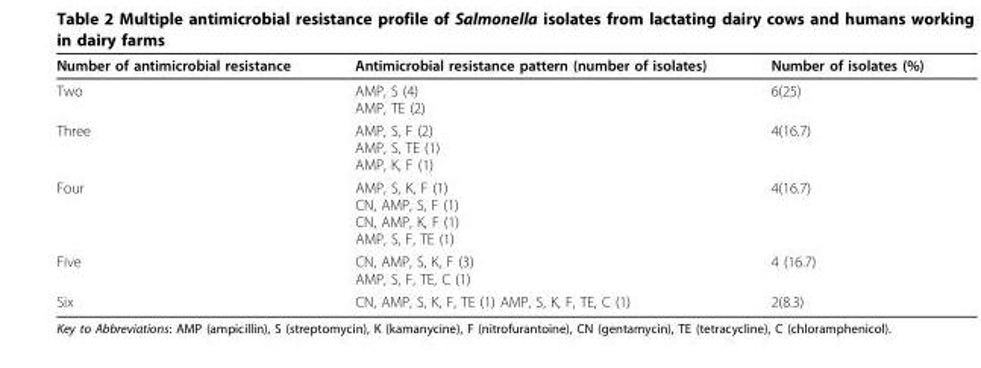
<table><thead><tr><td>Number of antimicrobial resistance</td><td>Antimicrobial resistance pattern (number of isolates)</td><td>Number of isolates (%)</td></tr></thead><tbody><tr><td>Two</td><td>AMP, S (4) AMP, TE (2)</td><td>6(25)</td></tr><tr><td>Three</td><td>AMP, S, F (2) AMP, S, TE (1) AMP, K, F (1)</td><td>4(16.7)</td></tr><tr><td>Four</td><td>AMP, S, K, F (1) CN, AMP, S, F (1) CN, AMP, K, F (1) AMP, S, F, TE (1)</td><td>4(16.7)</td></tr><tr><td>Five</td><td>CN, AMP, S, K, F (3) AMP, S, F, TE, C (1)</td><td>4 (16.7)</td></tr><tr><td>Six</td><td>CN, AMP, S, K, F, TE (1) AMP, S, K, F, TE, C (1)</td><td>2(8.3)</td></tr></tbody></table>